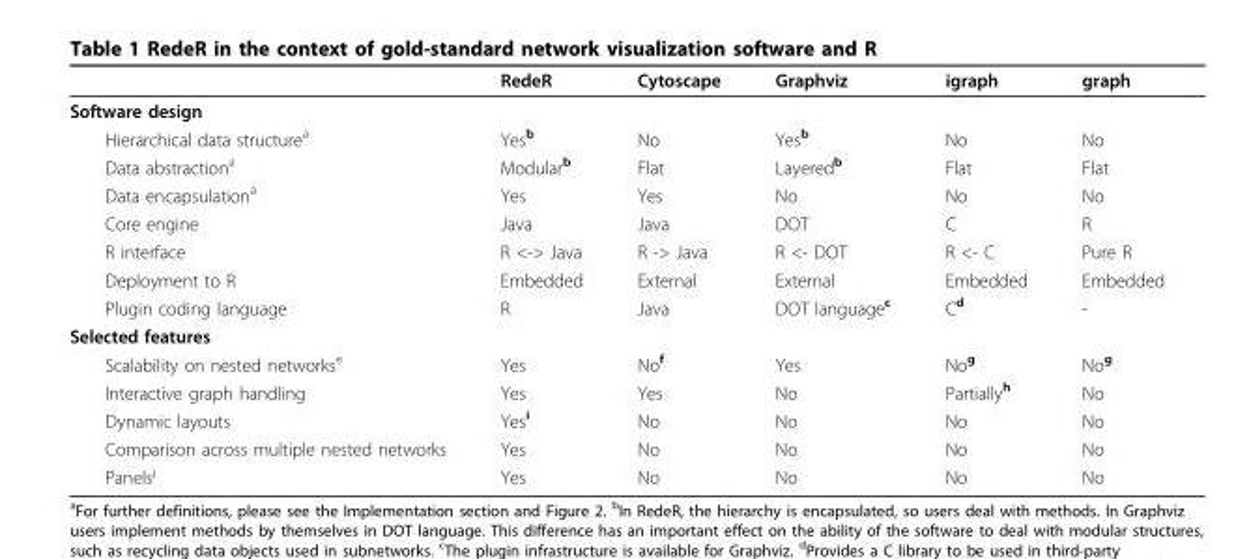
<table><thead><tr><td></td><td>RedeR</td><td>Cytoscape</td><td>Graphviz</td><td>igraph</td><td>graph</td></tr></thead><tbody><tr><td colspan="6">Software design</td></tr><tr><td>Hierarchical data structure<sup>a</sup></td><td>Yes<sup>b</sup></td><td>No</td><td>Yes<sup>b</sup></td><td>No</td><td>No</td></tr><tr><td>Data abstraction<sup>a</sup></td><td>Modular<sup>b</sup></td><td>Flat</td><td>Layered<sup>b</sup></td><td>Flat</td><td>Flat</td></tr><tr><td>Data encapsulation<sup>a</sup></td><td>Yes</td><td>Yes</td><td>No</td><td>No</td><td>No</td></tr><tr><td>Core engine</td><td>Java</td><td>Java</td><td>DOT</td><td>C</td><td>R</td></tr><tr><td>R interface</td><td>R &lt;-&gt; Java</td><td>R -&gt; Java</td><td>R &lt;- DOT</td><td>R &lt;- C</td><td>Pure R</td></tr><tr><td>Deployment to R</td><td>Embedded</td><td>External</td><td>External</td><td>Embedded</td><td>Embedded</td></tr><tr><td>Plugin coding language</td><td>R</td><td>Java</td><td>DOT language<sup>c</sup></td><td>C<sup>d</sup></td><td>-</td></tr><tr><td colspan="6">Selected features</td></tr><tr><td>Scalability on nested networks<sup>e</sup></td><td>Yes</td><td>No<sup>f</sup></td><td>Yes</td><td>No<sup>g</sup></td><td>No<sup>g</sup></td></tr><tr><td>Interactive graph handling</td><td>Yes</td><td>Yes</td><td>No</td><td>Partially<sup>h</sup></td><td>No</td></tr><tr><td>Dynamic layouts</td><td>Yes<sup>i</sup></td><td>No</td><td>No</td><td>No</td><td>No</td></tr><tr><td>Comparison across multiple nested networks</td><td>Yes</td><td>No</td><td>No</td><td>No</td><td>No</td></tr><tr><td>Panels<sup>j</sup></td><td>Yes</td><td>No</td><td>No</td><td>No</td><td>No</td></tr></tbody></table>